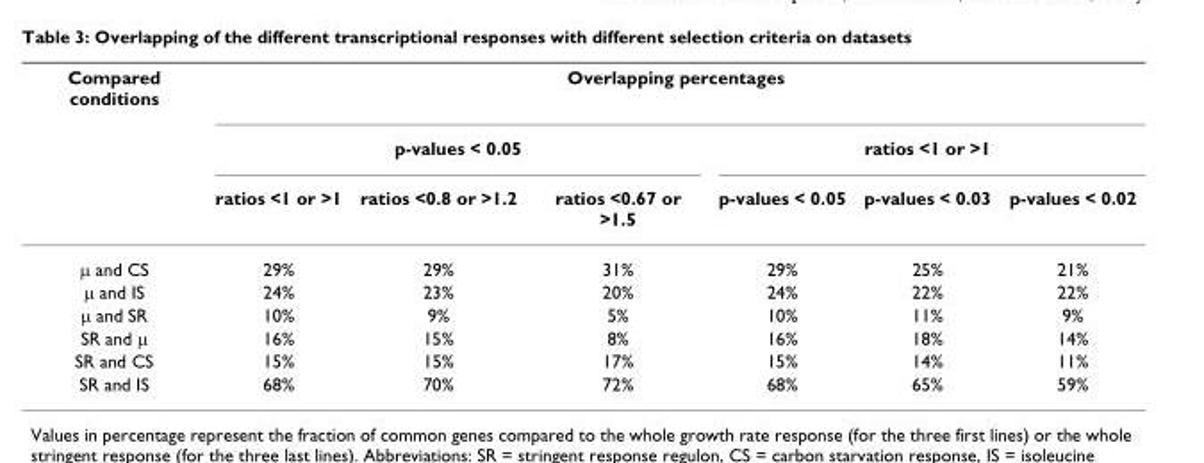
<table><thead><tr><td rowspan="3">Compared conditions</td><td colspan="6">Overlapping percentages</td></tr><tr><td colspan="3">p-values &lt; 0.05</td><td colspan="3">ratios &lt;1 or &gt;1</td></tr><tr><td>ratios &lt;1 or &gt;1</td><td>ratios &lt;0.8 or &gt;1.2</td><td>ratios &lt;0.67 or &gt;1.5</td><td>p-values &lt; 0.05</td><td>p-values &lt; 0.03</td><td>p-values &lt; 0.02</td></tr></thead><tbody><tr><td>μ and CS</td><td>29%</td><td>29%</td><td>31%</td><td>29%</td><td>25%</td><td>21%</td></tr><tr><td>μ and IS</td><td>24%</td><td>23%</td><td>20%</td><td>24%</td><td>22%</td><td>22%</td></tr><tr><td>μ and SR</td><td>10%</td><td>9%</td><td>5%</td><td>10%</td><td>11%</td><td>9%</td></tr><tr><td>SR and μ</td><td>16%</td><td>15%</td><td>8%</td><td>16%</td><td>18%</td><td>14%</td></tr><tr><td>SR and CS</td><td>15%</td><td>15%</td><td>17%</td><td>15%</td><td>14%</td><td>11%</td></tr><tr><td>SR and IS</td><td>68%</td><td>70%</td><td>72%</td><td>68%</td><td>65%</td><td>59%</td></tr></tbody></table>